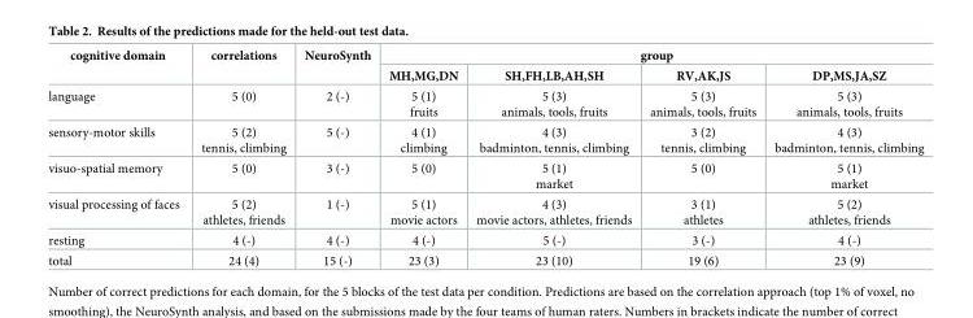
<table><thead><tr><td rowspan="2">cognitive domain</td><td rowspan="2">correlations</td><td rowspan="2">NeuroSynth</td><td colspan="4">group</td></tr><tr><td>MH,MG,DN</td><td>SH,FH,LB,AH,SH</td><td>RV,AK,JS</td><td>DP,MS,JA,SZ</td></tr></thead><tbody><tr><td>language</td><td>5 (0)</td><td>2 (-)</td><td>5 (1) fruits</td><td>5 (3) animals, tools, fruits</td><td>5 (3) animals, tools, fruits</td><td>5 (3) animals, tools, fruits</td></tr><tr><td>sensory-motor skills</td><td>5 (2) tennis, climbing</td><td>5 (-)</td><td>4 (1) climbing</td><td>4 (3) badminton, tennis, climbing</td><td>3 (2) tennis, climbing</td><td>4 (3) badminton, tennis, climbing</td></tr><tr><td>visuo-spatial memory</td><td>5 (0)</td><td>3 (-)</td><td>5 (0)</td><td>5 (1) market</td><td>5 (0)</td><td>5 (1) market</td></tr><tr><td>visual processing of faces</td><td>5 (2) athletes, friends</td><td>1 (-)</td><td>5 (1) movie actors</td><td>4 (3) movie actors, athletes, friends</td><td>3 (1) athletes</td><td>5 (2) athletes, friends</td></tr><tr><td>resting</td><td>4 (-)</td><td>4 (-)</td><td>4 (-)</td><td>5 (-)</td><td>3 (-)</td><td>4 (-)</td></tr><tr><td>total</td><td>24 (4)</td><td>15 (-)</td><td>23 (3)</td><td>23 (10)</td><td>19 (6)</td><td>23 (9)</td></tr></tbody></table>